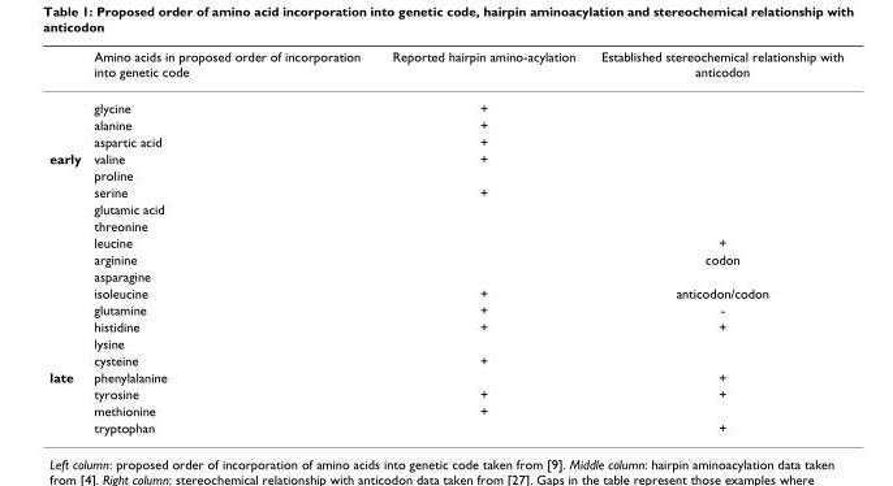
<table><thead><tr><td></td><td>Amino acids in proposed order of incorporation into genetic code</td><td>Reported hairpin amino-acylation</td><td>Established stereochemical relationship with anticodon</td></tr></thead><tbody><tr><td></td><td>glycine</td><td>+</td><td></td></tr><tr><td></td><td>alanine</td><td>+</td><td></td></tr><tr><td></td><td>aspartic acid</td><td>+</td><td></td></tr><tr><td rowspan="13">early</td><td>valine</td><td>+</td><td></td></tr><tr><td>proline</td><td></td><td></td></tr><tr><td>serine</td><td>+</td><td></td></tr><tr><td>glutamic acid</td><td></td><td></td></tr><tr><td>threonine</td><td></td><td></td></tr><tr><td>leucine</td><td></td><td>+</td></tr><tr><td>arginine</td><td></td><td>codon</td></tr><tr><td>asparagine</td><td></td><td></td></tr><tr><td>isoleucine</td><td>+</td><td>anticodon/codon</td></tr><tr><td>glutamine</td><td>+</td><td>-</td></tr><tr><td>histidine</td><td>+</td><td>+</td></tr><tr><td>lysine</td><td></td><td></td></tr><tr><td>cysteine</td><td>+</td><td></td></tr><tr><td rowspan="4">late</td><td>phenylalanine</td><td></td><td>+</td></tr><tr><td>tyrosine</td><td>+</td><td>+</td></tr><tr><td>methionine</td><td>+</td><td></td></tr><tr><td>tryptophan</td><td></td><td>+</td></tr></tbody></table>